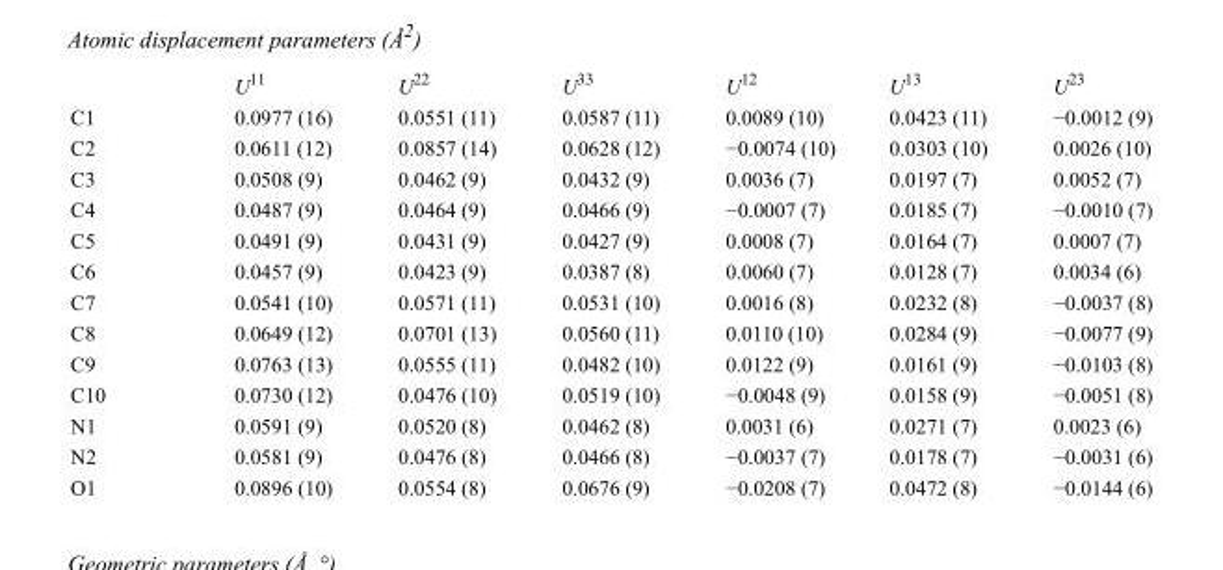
<table><thead><tr><td></td><td>U<sup>11</sup></td><td>U<sup>22</sup></td><td>U<sup>33</sup></td><td>U<sup>12</sup></td><td>U<sup>13</sup></td><td>U<sup>23</sup></td></tr></thead><tbody><tr><td>C1</td><td>0.0977 (16)</td><td>0.0551 (11)</td><td>0.0587 (11)</td><td>0.0089 (10)</td><td>0.0423 (11)</td><td>−0.0012 (9)</td></tr><tr><td>C2</td><td>0.0611 (12)</td><td>0.0857 (14)</td><td>0.0628 (12)</td><td>−0.0074 (10)</td><td>0.0303 (10)</td><td>0.0026 (10)</td></tr><tr><td>C3</td><td>0.0508 (9)</td><td>0.0462 (9)</td><td>0.0432 (9)</td><td>0.0036 (7)</td><td>0.0197 (7)</td><td>0.0052 (7)</td></tr><tr><td>C4</td><td>0.0487 (9)</td><td>0.0464 (9)</td><td>0.0466 (9)</td><td>−0.0007 (7)</td><td>0.0185 (7)</td><td>−0.0010 (7)</td></tr><tr><td>C5</td><td>0.0491 (9)</td><td>0.0431 (9)</td><td>0.0427 (9)</td><td>0.0008 (7)</td><td>0.0164 (7)</td><td>0.0007 (7)</td></tr><tr><td>C6</td><td>0.0457 (9)</td><td>0.0423 (9)</td><td>0.0387 (8)</td><td>0.0060 (7)</td><td>0.0128 (7)</td><td>0.0034 (6)</td></tr><tr><td>C7</td><td>0.0541 (10)</td><td>0.0571 (11)</td><td>0.0531 (10)</td><td>0.0016 (8)</td><td>0.0232 (8)</td><td>−0.0037 (8)</td></tr><tr><td>C8</td><td>0.0649 (12)</td><td>0.0701 (13)</td><td>0.0560 (11)</td><td>0.0110 (10)</td><td>0.0284 (9)</td><td>−0.0077 (9)</td></tr><tr><td>C9</td><td>0.0763 (13)</td><td>0.0555 (11)</td><td>0.0482 (10)</td><td>0.0122 (9)</td><td>0.0161 (9)</td><td>−0.0103 (8)</td></tr><tr><td>C10</td><td>0.0730 (12)</td><td>0.0476 (10)</td><td>0.0519 (10)</td><td>−0.0048 (9)</td><td>0.0158 (9)</td><td>−0.0051 (8)</td></tr><tr><td>N1</td><td>0.0591 (9)</td><td>0.0520 (8)</td><td>0.0462 (8)</td><td>0.0031 (6)</td><td>0.0271 (7)</td><td>0.0023 (6)</td></tr><tr><td>N2</td><td>0.0581 (9)</td><td>0.0476 (8)</td><td>0.0466 (8)</td><td>−0.0037 (7)</td><td>0.0178 (7)</td><td>−0.0031 (6)</td></tr><tr><td>O1</td><td>0.0896 (10)</td><td>0.0554 (8)</td><td>0.0676 (9)</td><td>−0.0208 (7)</td><td>0.0472 (8)</td><td>−0.0144 (6)</td></tr></tbody></table>